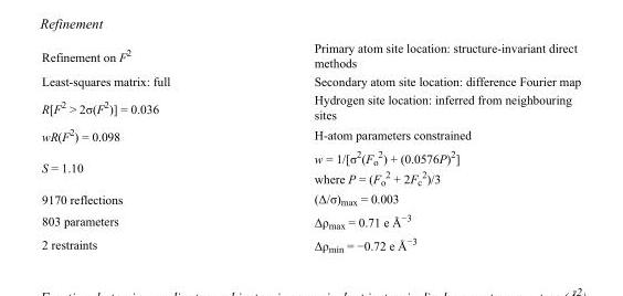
<table><tbody><tr><td>Refinement on F<sup>2</sup></td><td>Primary atom site location: structure-invariant direct methods</td></tr><tr><td>Least-squares matrix: full</td><td>Secondary atom site location: difference Fourier map</td></tr><tr><td>R[F<sup>2</sup> &gt; 2σ(F<sup>2</sup>)] = 0.036</td><td>Hydrogen site location: inferred from neighbouring sites</td></tr><tr><td>wR(F<sup>2</sup>) = 0.098</td><td>H-atom parameters constrained</td></tr><tr><td>S = 1.10</td><td>w = 1/[σ<sup>2</sup>(F<sub>o</sub> <sup>2</sup>) + (0.0576P)<sup>2</sup>] where P = (F<sub>o</sub> <sup>2</sup> + 2F<sub>c</sub> <sup>2</sup>)/3</td></tr><tr><td>9170 reflections</td><td>(Δ/σ)<sub>max</sub> = 0.003</td></tr><tr><td>803 parameters</td><td>Δρ<sub>max</sub> = 0.71 e Å<sup>−3</sup></td></tr><tr><td>2 restraints</td><td>Δρ<sub>min</sub> = −0.72 e Å<sup>−3</sup></td></tr></tbody></table>